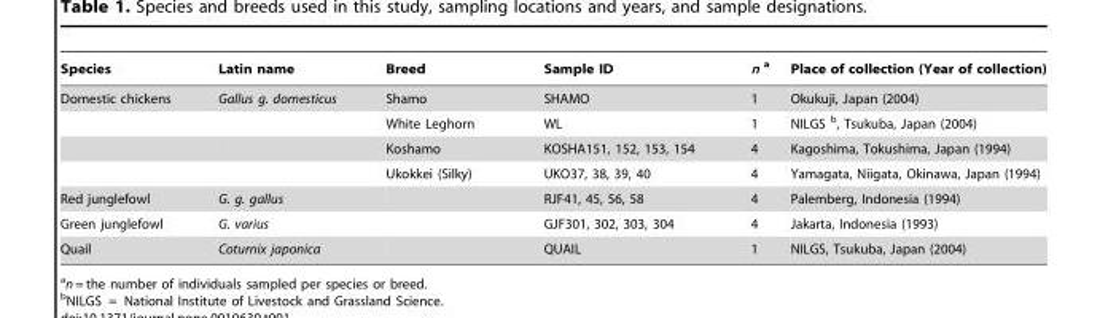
<table><thead><tr><td>Species</td><td>Latin name</td><td>Breed</td><td>Sample ID</td><td>n a</td><td>Place of collection (Year of collection)</td></tr></thead><tbody><tr><td rowspan="4">Domestic chickens</td><td>Gallus g. domesticus</td><td>Shamo</td><td>SHAMO</td><td>1</td><td>Okukuji, Japan (2004)</td></tr><tr><td></td><td>White Leghorn</td><td>WL</td><td>1</td><td>NILGS b, Tsukuba, Japan (2004)</td></tr><tr><td></td><td>Koshamo</td><td>KOSHA151, 152, 153, 154</td><td>4</td><td>Kagoshima, Tokushima, Japan (1994)</td></tr><tr><td></td><td>Ukokkei (Silky)</td><td>UKO37, 38, 39, 40</td><td>4</td><td>Yamagata, Niigata, Okinawa, Japan (1994)</td></tr><tr><td>Red junglefowl</td><td>G. g. gallus</td><td></td><td>RJF41, 45, 56, 58</td><td>4</td><td>Palemberg, Indonesia (1994)</td></tr><tr><td>Green junglefowl</td><td>G. varius</td><td></td><td>GJF301, 302, 303, 304</td><td>4</td><td>Jakarta, Indonesia (1993)</td></tr><tr><td>Quail</td><td>Coturnix japonica</td><td></td><td>QUAIL</td><td>1</td><td>NILGS, Tsukuba, Japan (2004)</td></tr></tbody></table>